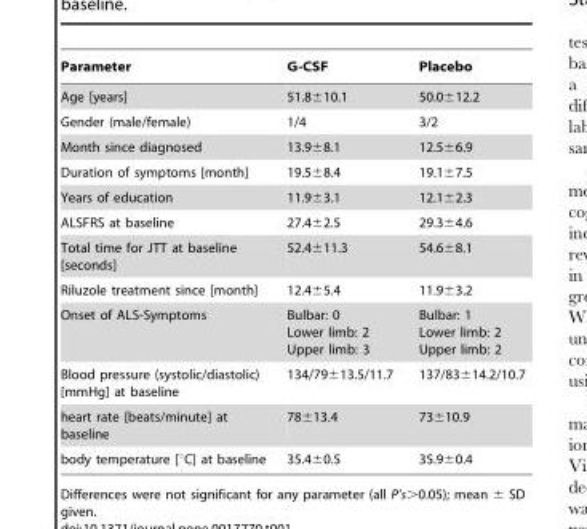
<table><thead><tr><td>Parameter</td><td>G-CSF</td><td>Placebo</td></tr></thead><tbody><tr><td>Age [years]</td><td>51.8±10.1</td><td>50.0±12.2</td></tr><tr><td>Gender (male/female)</td><td>1/4</td><td>3/2</td></tr><tr><td>Month since diagnosed</td><td>13.9±8.1</td><td>12.5±6.9</td></tr><tr><td>Duration of symptoms [month]</td><td>19.5±8.4</td><td>19.1±7.5</td></tr><tr><td>Years of education</td><td>11.9±3.1</td><td>12.1±2.3</td></tr><tr><td>ALSFRS at baseline</td><td>27.4±2.5</td><td>29.3±4.6</td></tr><tr><td>Total time for JTT at baseline [seconds]</td><td>52.4±11.3</td><td>54.6±8.1</td></tr><tr><td>Riluzole treatment since [month]</td><td>12.4±5.4</td><td>11.9±3.2</td></tr><tr><td>Onset of ALS-Symptoms</td><td>Bulbar: 0 Lower limb: 2 Upper limb: 3</td><td>Bulbar: 1 Lower limb: 2 Upper limb: 2</td></tr><tr><td>Blood pressure (systolic/diastolic) [mmHg] at baseline</td><td>134/79±13.5/11.7</td><td>137/83±14.2/10.7</td></tr><tr><td>heart rate [beats/minute] at baseline</td><td>78±13.4</td><td>73±10.9</td></tr><tr><td>body temperature [°C] at baseline</td><td>35.4±0.5</td><td>35.9±0.4</td></tr></tbody></table>